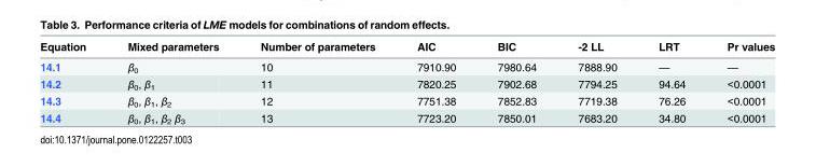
<table><thead><tr><td>Equation</td><td>Mixed parameters</td><td>Number of parameters</td><td>AIC</td><td>BIC</td><td>-2 LL</td><td>LRT</td><td>Pr values</td></tr></thead><tbody><tr><td>14.1</td><td>β<sub>0</sub></td><td>10</td><td>7910.90</td><td>7980.64</td><td>7888.90</td><td>—</td><td>—</td></tr><tr><td>14.2</td><td>β<sub>0</sub>, β<sub>1</sub></td><td>11</td><td>7820.25</td><td>7902.68</td><td>7794.25</td><td>94.64</td><td>&lt;0.0001</td></tr><tr><td>14.3</td><td>β<sub>0</sub>, β<sub>1</sub>, β<sub>2</sub></td><td>12</td><td>7751.38</td><td>7852.83</td><td>7719.38</td><td>76.26</td><td>&lt;0.0001</td></tr><tr><td>14.4</td><td>β<sub>0</sub>, β<sub>1</sub>, β<sub>2</sub> β<sub>3</sub></td><td>13</td><td>7723.20</td><td>7850.01</td><td>7683.20</td><td>34.80</td><td>&lt;0.0001</td></tr></tbody></table>